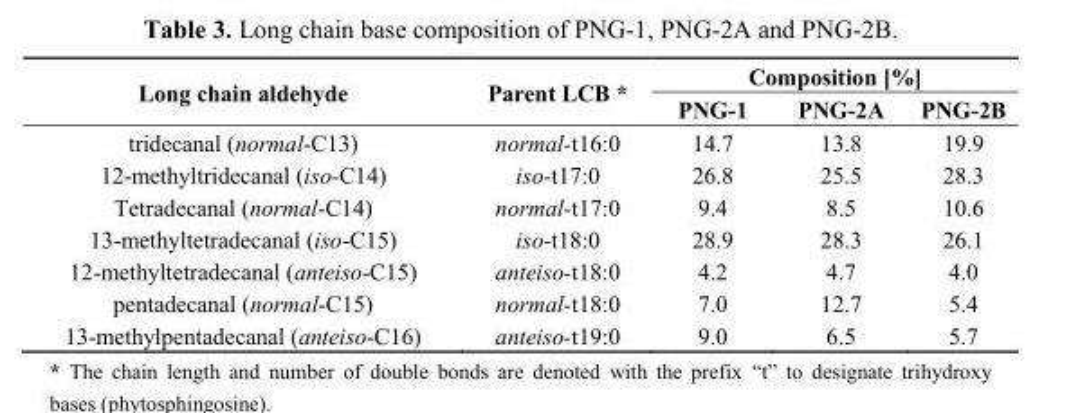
<table><thead><tr><td rowspan="2">Long chain aldehyde</td><td rowspan="2">Parent LCB *</td><td colspan="3">Composition [%]</td></tr><tr><td>PNG-1</td><td>PNG-2A</td><td>PNG-2B</td></tr></thead><tbody><tr><td>tridecanal (normal-C13)</td><td>normal-t16:0</td><td>14.7</td><td>13.8</td><td>19.9</td></tr><tr><td>12-methyltridecanal (iso-C14)</td><td>iso-t17:0</td><td>26.8</td><td>25.5</td><td>28.3</td></tr><tr><td>Tetradecanal (normal-C14)</td><td>normal-t17:0</td><td>9.4</td><td>8.5</td><td>10.6</td></tr><tr><td>13-methyltetradecanal (iso-C15)</td><td>iso-t18:0</td><td>28.9</td><td>28.3</td><td>26.1</td></tr><tr><td>12-methyltetradecanal (anteiso-C15)</td><td>anteiso-t18:0</td><td>4.2</td><td>4.7</td><td>4.0</td></tr><tr><td>pentadecanal (normal-C15)</td><td>normal-t18:0</td><td>7.0</td><td>12.7</td><td>5.4</td></tr><tr><td>13-methylpentadecanal (anteiso-C16)</td><td>anteiso-t19:0</td><td>9.0</td><td>6.5</td><td>5.7</td></tr></tbody></table>